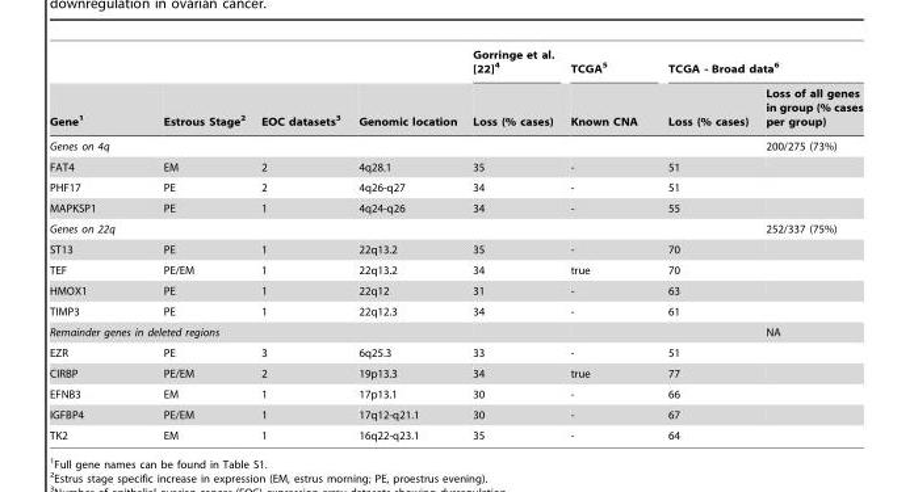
<table><thead><tr><td rowspan="2">Gene<sup>1</sup></td><td rowspan="2">Estrous Stage<sup>2</sup></td><td rowspan="2">EOC datasets<sup>3</sup></td><td rowspan="2">Genomic location</td><td rowspan="2">Gorringe et al. [22]4 Loss (% cases)</td><td rowspan="2">TCGA<sup>5</sup> Known CNA</td><td colspan="2">TCGA - Broad data<sup>6</sup></td></tr><tr><td>Loss (% cases)</td><td>Loss of all genes in group (% cases per group)</td></tr></thead><tbody><tr><td colspan="2">Genes on 4q</td><td></td><td></td><td></td><td></td><td></td><td>200/275 (73%)</td></tr><tr><td>FAT4</td><td>EM</td><td>2</td><td>4q28.1</td><td>35</td><td>-</td><td>51</td><td></td></tr><tr><td>PHF17</td><td>PE</td><td>2</td><td>4q26-q27</td><td>34</td><td>-</td><td>51</td><td></td></tr><tr><td>MAPKSP1</td><td>PE</td><td>1</td><td>4q24-q26</td><td>34</td><td>-</td><td>55</td><td></td></tr><tr><td colspan="2">Genes on 22q</td><td></td><td></td><td></td><td></td><td></td><td>252/337 (75%)</td></tr><tr><td>ST13</td><td>PE</td><td>1</td><td>22q13.2</td><td>35</td><td>-</td><td>70</td><td></td></tr><tr><td>TEF</td><td>PE/EM</td><td>1</td><td>22q13.2</td><td>34</td><td>true</td><td>70</td><td></td></tr><tr><td>HMOX1</td><td>PE</td><td>1</td><td>22q12</td><td>31</td><td>-</td><td>63</td><td></td></tr><tr><td>TIMP3</td><td>PE</td><td>1</td><td>22q12.3</td><td>34</td><td>-</td><td>61</td><td></td></tr><tr><td colspan="4">Remainder genes in deleted regions</td><td></td><td></td><td></td><td>NA</td></tr><tr><td>EZR</td><td>PE</td><td>3</td><td>6q25.3</td><td>33</td><td>-</td><td>51</td><td></td></tr><tr><td>CIRBP</td><td>PE/EM</td><td>2</td><td>19p13.3</td><td>34</td><td>true</td><td>77</td><td></td></tr><tr><td>EFNB3</td><td>EM</td><td>1</td><td>17p13.1</td><td>30</td><td>-</td><td>66</td><td></td></tr><tr><td>IGFBP4</td><td>PE/EM</td><td>1</td><td>17q12-q21.1</td><td>30</td><td>-</td><td>67</td><td></td></tr><tr><td>TK2</td><td>EM</td><td>1</td><td>16q22-q23.1</td><td>35</td><td>-</td><td>64</td><td></td></tr></tbody></table>